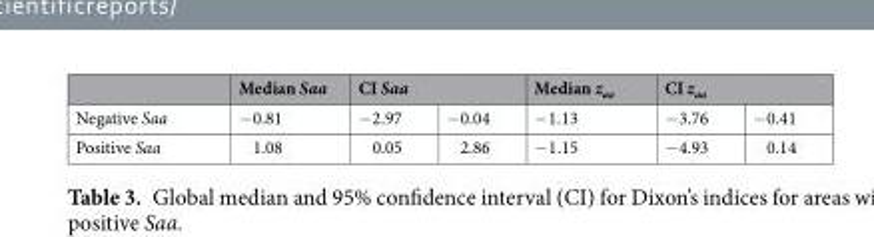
<table><thead><tr><td rowspan="2">Negative Saa</td><td rowspan="2">Median Saa −0.81</td><td colspan="2">CI Saa</td><td rowspan="2">Median z<sub>aa</sub> −1.13</td><td colspan="2">CI z<sub>aa</sub></td></tr><tr><td>−2.97</td><td>−0.04</td><td>−3.76</td><td>−0.41</td></tr></thead><tbody><tr><td>Positive Saa</td><td>1.08</td><td>0.05</td><td>2.86</td><td>−1.15</td><td>−4.93</td><td>0.14</td></tr></tbody></table>